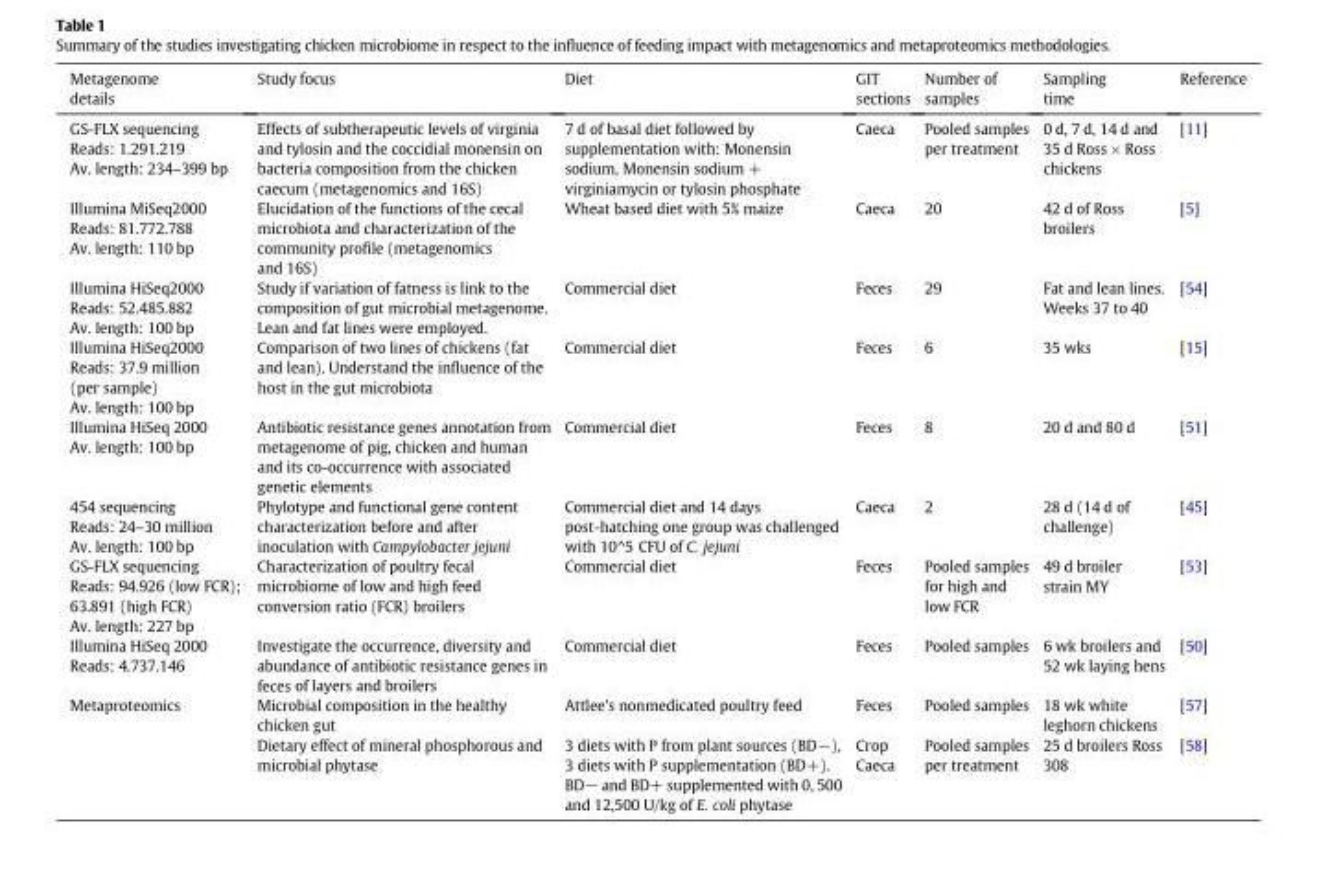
<table><thead><tr><td>Metagenome details</td><td>Study focus</td><td>Diet</td><td>GIT sections</td><td>Number of samples</td><td>Sampling time</td><td>Reference</td></tr></thead><tbody><tr><td>GS-FLX sequencing Reads: 1.291.219 Av. length: 234–399 bp</td><td>Effects of subtherapeutic levels of virginia and tylosin and the coccidial monensin on bacteria composition from the chicken caecum (metagenomics and 16S)</td><td>7 d of basal diet followed by supplementation with: Monensin sodium, Monensin sodium + virginiamycin or tylosin phosphate</td><td>Caeca</td><td>Pooled samples per treatment</td><td>0 d, 7 d, 14 d and 35 d Ross × Ross chickens</td><td>[11]</td></tr><tr><td>Illumina MiSeq2000 Reads: 81.772.788 Av. length: 110 bp</td><td>Elucidation of the functions of the cecal microbiota and characterization of the community profile (metagenomics and 16S)</td><td>Wheat based diet with 5% maize</td><td>Caeca</td><td>20</td><td>42 d of Ross broilers</td><td>[5]</td></tr><tr><td>Illumina HiSeq2000 Reads: 52.485.882 Av. length: 100 bp</td><td>Study if variation of fatness is link to the composition of gut microbial metagenome. Lean and fat lines were employed.</td><td>Commercial diet</td><td>Feces</td><td>29</td><td>Fat and lean lines. Weeks 37 to 40</td><td>[54]</td></tr><tr><td>Illumina HiSeq2000 Reads: 37.9 million (per sample) Av. length: 100 bp</td><td>Comparison of two lines of chickens (fat and lean). Understand the influence of the host in the gut microbiota</td><td>Commercial diet</td><td>Feces</td><td>6</td><td>35 wks</td><td>[15]</td></tr><tr><td>Illumina HiSeq 2000 Av. length: 100 bp</td><td>Antibiotic resistance genes annotation from metagenome of pig, chicken and human and its co-occurrence with associated genetic elements</td><td>Commercial diet</td><td>Feces</td><td>8</td><td>20 d and 80 d</td><td>[51]</td></tr><tr><td>454 sequencing Reads: 24–30 million Av. length: 100 bp</td><td>Phylotype and functional gene content characterization before and after inoculation with Campylobacter jejuni</td><td>Commercial diet and 14 days post-hatching one group was challenged with 10^5 CFU of C. jejuni</td><td>Caeca</td><td>2</td><td>28 d (14 d of challenge)</td><td>[45]</td></tr><tr><td>GS-FLX sequencing Reads: 94.926 (low FCR); 63.891 (high FCR) Av. length: 227 bp</td><td>Characterization of poultry fecal microbiome of low and high feed conversion ratio (FCR) broilers</td><td>Commercial diet</td><td>Feces</td><td>Pooled samples for high and low FCR</td><td>49 d broiler strain MY</td><td>[53]</td></tr><tr><td>Illumina HiSeq 2000 Reads: 4.737.146</td><td>Investigate the occurrence, diversity and abundance of antibiotic resistance genes in feces of layers and broilers</td><td>Commercial diet</td><td>Feces</td><td>Pooled samples</td><td>6 wk broilers and 52 wk laying hens</td><td>[50]</td></tr><tr><td rowspan="2">Metaproteomics</td><td>Microbial composition in the healthy chicken gut</td><td>Attlee&#x27;s nonmedicated poultry feed</td><td>Feces</td><td>Pooled samples</td><td>18 wk white leghorn chickens</td><td>[57]</td></tr><tr><td>Dietary effect of mineral phosphorous and microbial phytase</td><td>3 diets with P from plant sources (BD−), 3 diets with P supplementation (BD+). BD− and BD+ supplemented with 0, 500 and 12,500 U/kg of E. coli phytase</td><td>Crop Caeca</td><td>Pooled samples per treatment</td><td>25 d broilers Ross 308</td><td>[58]</td></tr></tbody></table>